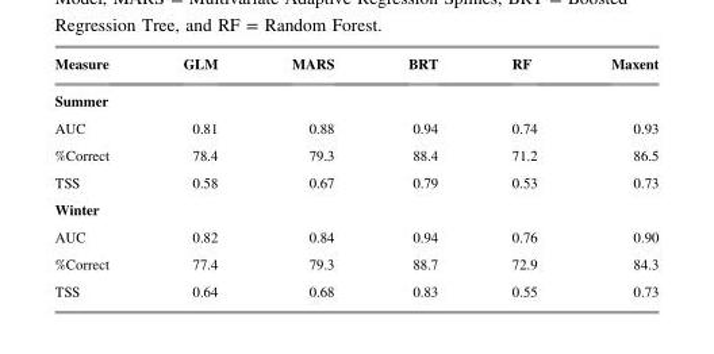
<table><thead><tr><td>Measure</td><td>GLM</td><td>MARS</td><td>BRT</td><td>RF</td><td>Maxent</td></tr></thead><tbody><tr><td colspan="6">Summer</td></tr><tr><td>AUC</td><td>0.81</td><td>0.88</td><td>0.94</td><td>0.74</td><td>0.93</td></tr><tr><td>%Correct</td><td>78.4</td><td>79.3</td><td>88.4</td><td>71.2</td><td>86.5</td></tr><tr><td>TSS</td><td>0.58</td><td>0.67</td><td>0.79</td><td>0.53</td><td>0.73</td></tr><tr><td colspan="6">Winter</td></tr><tr><td>AUC</td><td>0.82</td><td>0.84</td><td>0.94</td><td>0.76</td><td>0.90</td></tr><tr><td>%Correct</td><td>77.4</td><td>79.3</td><td>88.7</td><td>72.9</td><td>84.3</td></tr><tr><td>TSS</td><td>0.64</td><td>0.68</td><td>0.83</td><td>0.55</td><td>0.73</td></tr></tbody></table>